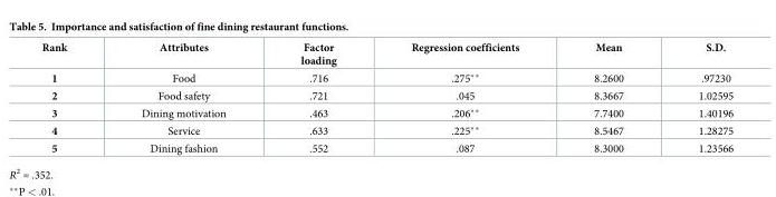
<table><thead><tr><td>Rank</td><td>Attributes</td><td>Factor loading</td><td>Regression coefficients</td><td>Mean</td><td>S.D.</td></tr></thead><tbody><tr><td>1</td><td>Food</td><td>.716</td><td>.275**</td><td>8.2600</td><td>.97230</td></tr><tr><td>2</td><td>Food safety</td><td>.721</td><td>.045</td><td>8.3667</td><td>1.02595</td></tr><tr><td>3</td><td>Dining motivation</td><td>.463</td><td>.206**</td><td>7.7400</td><td>1.40196</td></tr><tr><td>4</td><td>Service</td><td>.633</td><td>.225**</td><td>8.5467</td><td>1.28275</td></tr><tr><td>5</td><td>Dining fashion</td><td>.552</td><td>.087</td><td>8.3000</td><td>1.23566</td></tr></tbody></table>